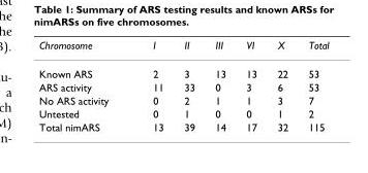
<table><thead><tr><td>Chromosome</td><td>I</td><td>II</td><td>III</td><td>VI</td><td>X</td><td>Total</td></tr></thead><tbody><tr><td>Known ARS</td><td>2</td><td>3</td><td>13</td><td>13</td><td>22</td><td>53</td></tr><tr><td>ARS activity</td><td>11</td><td>33</td><td>0</td><td>3</td><td>6</td><td>53</td></tr><tr><td>No ARS activity</td><td>0</td><td>2</td><td>1</td><td>1</td><td>3</td><td>7</td></tr><tr><td>Untested</td><td>0</td><td>1</td><td>0</td><td>0</td><td>1</td><td>2</td></tr><tr><td>Total nimARS</td><td>13</td><td>39</td><td>14</td><td>17</td><td>32</td><td>115</td></tr></tbody></table>